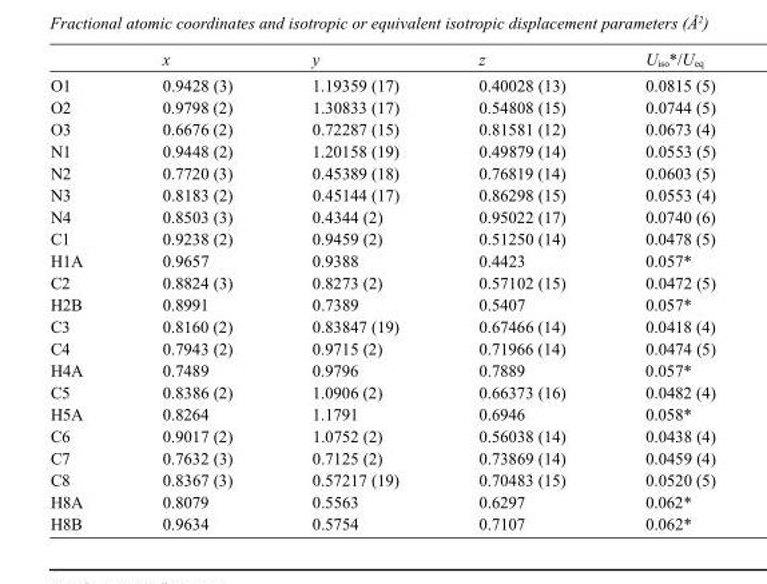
<table><thead><tr><td></td><td>x</td><td>y</td><td>z</td><td>U<sub>iso</sub>*/U<sub>eq</sub></td></tr></thead><tbody><tr><td>O1</td><td>0.9428 (3)</td><td>1.19359 (17)</td><td>0.40028 (13)</td><td>0.0815 (5)</td></tr><tr><td>O2</td><td>0.9798 (2)</td><td>1.30833 (17)</td><td>0.54808 (15)</td><td>0.0744 (5)</td></tr><tr><td>O3</td><td>0.6676 (2)</td><td>0.72287 (15)</td><td>0.81581 (12)</td><td>0.0673 (4)</td></tr><tr><td>N1</td><td>0.9448 (2)</td><td>1.20158 (19)</td><td>0.49879 (14)</td><td>0.0553 (5)</td></tr><tr><td>N2</td><td>0.7720 (3)</td><td>0.45389 (18)</td><td>0.76819 (14)</td><td>0.0603 (5)</td></tr><tr><td>N3</td><td>0.8183 (2)</td><td>0.45144 (17)</td><td>0.86298 (15)</td><td>0.0553 (4)</td></tr><tr><td>N4</td><td>0.8503 (3)</td><td>0.4344 (2)</td><td>0.95022 (17)</td><td>0.0740 (6)</td></tr><tr><td>C1</td><td>0.9238 (2)</td><td>0.9459 (2)</td><td>0.51250 (14)</td><td>0.0478 (5)</td></tr><tr><td>H1A</td><td>0.9657</td><td>0.9388</td><td>0.4423</td><td>0.057*</td></tr><tr><td>C2</td><td>0.8824 (3)</td><td>0.8273 (2)</td><td>0.57102 (15)</td><td>0.0472 (5)</td></tr><tr><td>H2B</td><td>0.8991</td><td>0.7389</td><td>0.5407</td><td>0.057*</td></tr><tr><td>C3</td><td>0.8160 (2)</td><td>0.83847 (19)</td><td>0.67466 (14)</td><td>0.0418 (4)</td></tr><tr><td>C4</td><td>0.7943 (2)</td><td>0.9715 (2)</td><td>0.71966 (14)</td><td>0.0474 (5)</td></tr><tr><td>H4A</td><td>0.7489</td><td>0.9796</td><td>0.7889</td><td>0.057*</td></tr><tr><td>C5</td><td>0.8386 (2)</td><td>1.0906 (2)</td><td>0.66373 (16)</td><td>0.0482 (4)</td></tr><tr><td>H5A</td><td>0.8264</td><td>1.1791</td><td>0.6946</td><td>0.058*</td></tr><tr><td>C6</td><td>0.9017 (2)</td><td>1.0752 (2)</td><td>0.56038 (14)</td><td>0.0438 (4)</td></tr><tr><td>C7</td><td>0.7632 (3)</td><td>0.7125 (2)</td><td>0.73869 (14)</td><td>0.0459 (4)</td></tr><tr><td>C8</td><td>0.8367 (3)</td><td>0.57217 (19)</td><td>0.70483 (15)</td><td>0.0520 (5)</td></tr><tr><td>H8A</td><td>0.8079</td><td>0.5563</td><td>0.6297</td><td>0.062*</td></tr><tr><td>H8B</td><td>0.9634</td><td>0.5754</td><td>0.7107</td><td>0.062*</td></tr></tbody></table>